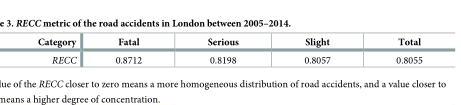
<table><thead><tr><td>Category</td><td>Fatal</td><td>Serious</td><td>Slight</td><td>Total</td></tr></thead><tbody><tr><td>RECC</td><td>0.8712</td><td>0.8198</td><td>0.8057</td><td>0.8055</td></tr></tbody></table>